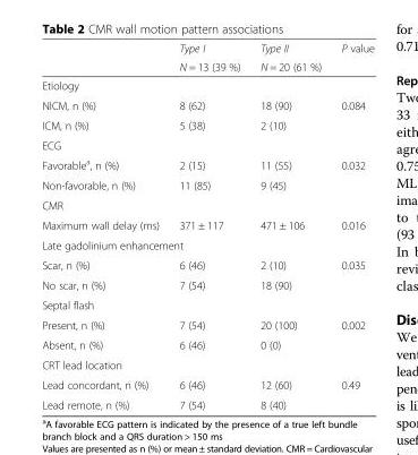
<table><thead><tr><td rowspan="2"></td><td rowspan="2">Type I N = 13 (39 %)</td><td rowspan="2">Type II N = 20 (61 %)</td><td rowspan="2">P value</td></tr><tr></tr></thead><tbody><tr><td colspan="4">Etiology</td></tr><tr><td>NICM, n (%)</td><td>8 (62)</td><td>18 (90)</td><td>0.084</td></tr><tr><td>ICM, n (%)</td><td>5 (38)</td><td>2 (10)</td><td></td></tr><tr><td colspan="4">ECG</td></tr><tr><td>Favorable<sup>a</sup>, n (%)</td><td>2 (15)</td><td>11 (55)</td><td>0.032</td></tr><tr><td>Non-favorable, n (%)</td><td>11 (85)</td><td>9 (45)</td><td></td></tr><tr><td colspan="4">CMR</td></tr><tr><td>Maximum wall delay (ms)</td><td>371 ± 117</td><td>471 ± 106</td><td>0.016</td></tr><tr><td colspan="4">Late gadolinium enhancement</td></tr><tr><td>Scar, n (%)</td><td>6 (46)</td><td>2 (10)</td><td>0.035</td></tr><tr><td>No scar, n (%)</td><td>7 (54)</td><td>18 (90)</td><td></td></tr><tr><td colspan="4">Septal flash</td></tr><tr><td>Present, n (%)</td><td>7 (54)</td><td>20 (100)</td><td>0.002</td></tr><tr><td>Absent, n (%)</td><td>6 (46)</td><td>0 (0)</td><td></td></tr><tr><td colspan="4">CRT lead location</td></tr><tr><td>Lead concordant, n (%)</td><td>6 (46)</td><td>12 (60)</td><td>0.49</td></tr><tr><td>Lead remote, n (%)</td><td>7 (54)</td><td>8 (40)</td><td></td></tr></tbody></table>